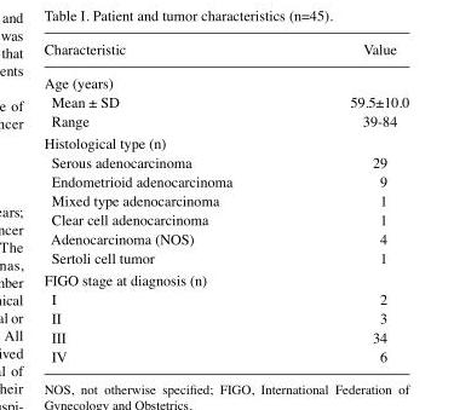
<table><thead><tr><td>Characteristic</td><td>Value</td></tr></thead><tbody><tr><td colspan="2">Age (years)</td></tr><tr><td>Mean ± SD</td><td>59.5±10.0</td></tr><tr><td>Range</td><td>39-84</td></tr><tr><td colspan="2">Histological type (n)</td></tr><tr><td>Serous adenocarcinoma</td><td>29</td></tr><tr><td>Endometrioid adenocarcinoma</td><td>9</td></tr><tr><td>Mixed type adenocarcinoma</td><td>1</td></tr><tr><td>Clear cell adenocarcinoma</td><td>1</td></tr><tr><td>Adenocarcinoma (NOS)</td><td>4</td></tr><tr><td>Sertoli cell tumor</td><td>1</td></tr><tr><td colspan="2">FIGO stage at diagnosis (n)</td></tr><tr><td>I</td><td>2</td></tr><tr><td>II</td><td>3</td></tr><tr><td>III</td><td>34</td></tr><tr><td>IV</td><td>6</td></tr></tbody></table>